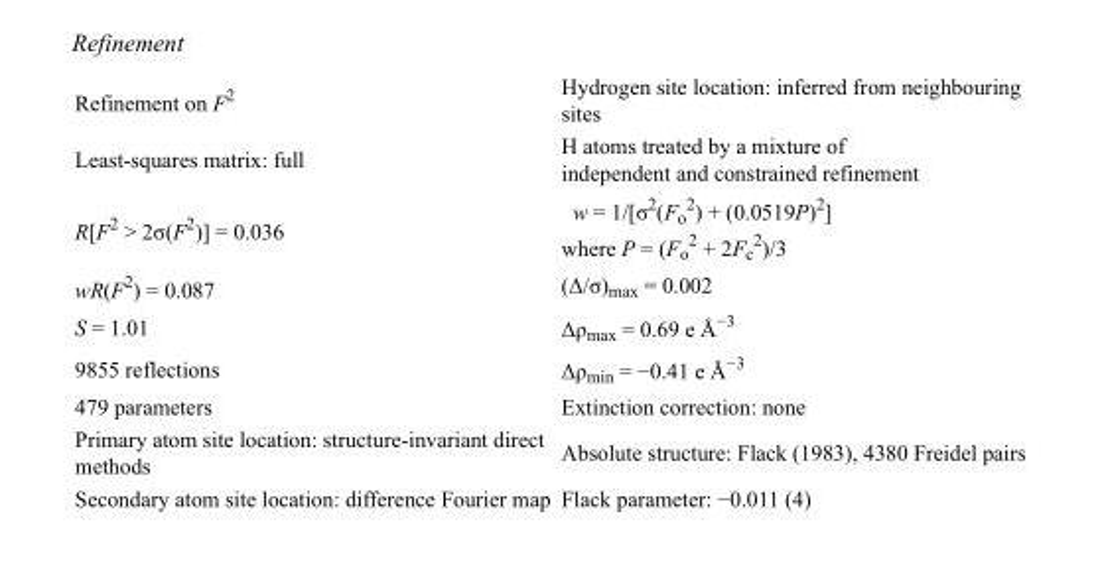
<table><tbody><tr><td>Refinement on F<sup>2</sup></td><td>Hydrogen site location: inferred from neighbouring sites</td></tr><tr><td>Least-squares matrix: full</td><td>H atoms treated by a mixture of independent and constrained refinement</td></tr><tr><td>R[F<sup>2</sup> &gt; 2σ(F<sup>2</sup>)] = 0.036</td><td>w = 1/[σ<sup>2</sup>(F<sub>o</sub> <sup>2</sup>) + (0.0519P)<sup>2</sup>] where P = (F<sub>o</sub> <sup>2</sup> + 2F<sub>c</sub> <sup>2</sup>)/3</td></tr><tr><td>wR(F<sup>2</sup>) = 0.087</td><td>(Δ/σ)<sub>max</sub> = 0.002</td></tr><tr><td>S = 1.01</td><td>Δρ<sub>max</sub> = 0.69 e Å<sup>−3</sup></td></tr><tr><td>9855 reflections</td><td>Δρ<sub>min</sub> = −0.41 e Å<sup>−3</sup></td></tr><tr><td>479 parameters</td><td>Extinction correction: none</td></tr><tr><td>Primary atom site location: structure-invariant direct methods</td><td>Absolute structure: Flack (1983), 4380 Freidel pairs</td></tr><tr><td>Secondary atom site location: difference Fourier map</td><td>Flack parameter: −0.011 (4)</td></tr></tbody></table>